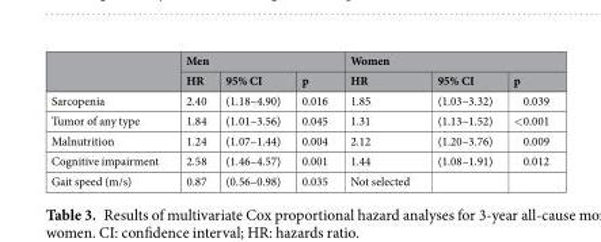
<table><thead><tr><td rowspan="2"></td><td colspan="3">Men</td><td colspan="3">Women</td></tr><tr><td>HR</td><td>95% CI</td><td>p</td><td>HR</td><td>95% CI</td><td>p</td></tr></thead><tbody><tr><td>Sarcopenia</td><td>2.40</td><td>(1.18–4.90)</td><td>0.016</td><td>1.85</td><td>(1.03–3.32)</td><td>0.039</td></tr><tr><td>Tumor of any type</td><td>1.84</td><td>(1.01–3.56)</td><td>0.045</td><td>1.31</td><td>(1.13–1.52)</td><td>&lt;0.001</td></tr><tr><td>Malnutrition</td><td>1.24</td><td>(1.07–1.44)</td><td>0.004</td><td>2.12</td><td>(1.20–3.76)</td><td>0.009</td></tr><tr><td>Cognitive impairment</td><td>2.58</td><td>(1.46–4.57)</td><td>0.001</td><td>1.44</td><td>(1.08–1.91)</td><td>0.012</td></tr><tr><td>Gait speed (m/s)</td><td>0.87</td><td>(0.56–0.98)</td><td>0.035</td><td>Not selected</td><td></td><td></td></tr></tbody></table>